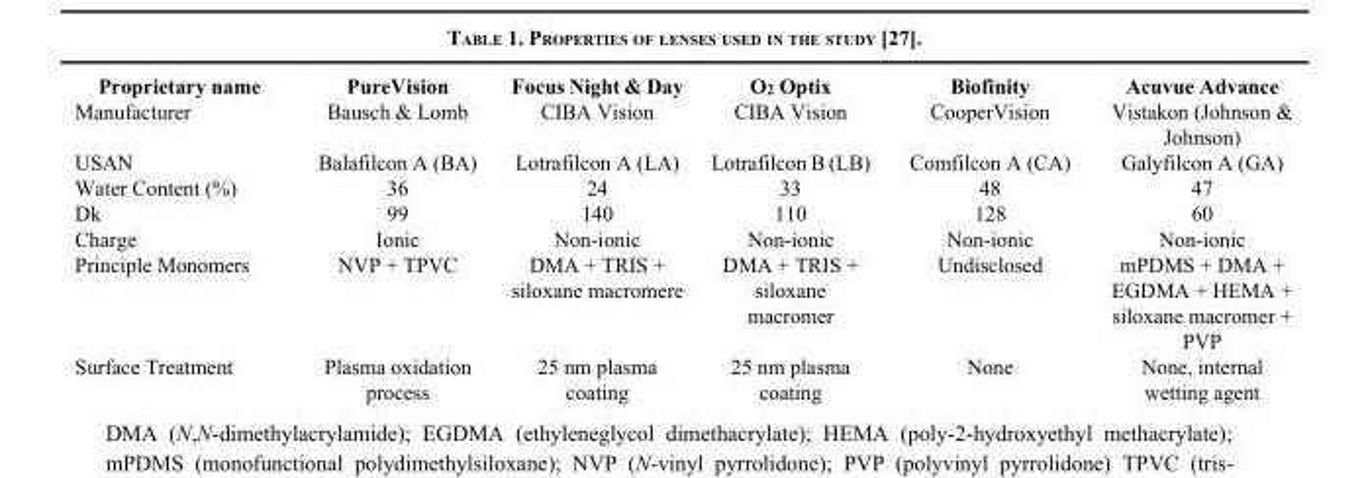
<table><thead><tr><td>Proprietary name</td><td>PureVision</td><td>Focus Night &amp; Day</td><td>O<sub>2</sub> Optix</td><td>Biofinity</td><td>Acuvue Advance</td></tr></thead><tbody><tr><td>Manufacturer</td><td>Bausch &amp; Lomb</td><td>CIBA Vision</td><td>CIBA Vision</td><td>CooperVision</td><td>Vistakon (Johnson &amp; Johnson)</td></tr><tr><td>USAN</td><td>Balafilcon A (BA)</td><td>Lotrafilcon A (LA)</td><td>Lotrafilcon B (LB)</td><td>Comfilcon A (CA)</td><td>Galyfilcon A (GA)</td></tr><tr><td>Water Content (%)</td><td>36</td><td>24</td><td>33</td><td>48</td><td>47</td></tr><tr><td>Dk</td><td>99</td><td>140</td><td>110</td><td>128</td><td>60</td></tr><tr><td>Charge</td><td>Ionic</td><td>Non-ionic</td><td>Non-ionic</td><td>Non-ionic</td><td>Non-ionic</td></tr><tr><td>Principle Monomers</td><td>NVP + TPVC</td><td>DMA + TRIS + siloxane macromere</td><td>DMA + TRIS + siloxane macromer</td><td>Undisclosed</td><td>mPDMS + DMA + EGDMA + HEMA + siloxane macromer + PVP</td></tr><tr><td>Surface Treatment</td><td>Plasma oxidation process</td><td>25 nm plasma coating</td><td>25 nm plasma coating</td><td>None</td><td>None, internal wetting agent</td></tr></tbody></table>